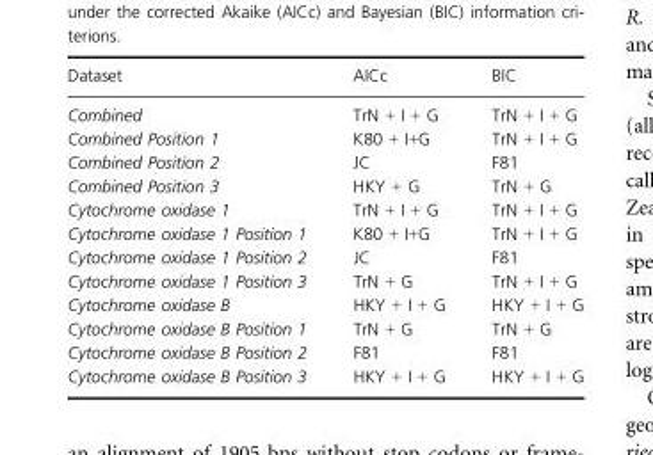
<table><thead><tr><td>Dataset</td><td>AICc</td><td>BIC</td></tr></thead><tbody><tr><td>Combined</td><td>TrN + I + G</td><td>TrN + I + G</td></tr><tr><td>Combined Position 1</td><td>K80 + I+G</td><td>TrN + I + G</td></tr><tr><td>Combined Position 2</td><td>JC</td><td>F81</td></tr><tr><td>Combined Position 3</td><td>HKY + G</td><td>TrN + G</td></tr><tr><td>Cytochrome oxidase 1</td><td>TrN + I + G</td><td>TrN + I + G</td></tr><tr><td>Cytochrome oxidase 1 Position 1</td><td>K80 + I+G</td><td>TrN + I + G</td></tr><tr><td>Cytochrome oxidase 1 Position 2</td><td>JC</td><td>F81</td></tr><tr><td>Cytochrome oxidase 1 Position 3</td><td>TrN + G</td><td>TrN + I + G</td></tr><tr><td>Cytochrome oxidase B</td><td>HKY + I + G</td><td>HKY + I + G</td></tr><tr><td>Cytochrome oxidase B Position 1</td><td>TrN + G</td><td>TrN + G</td></tr><tr><td>Cytochrome oxidase B Position 2</td><td>F81</td><td>F81</td></tr><tr><td>Cytochrome oxidase B Position 3</td><td>HKY + I + G</td><td>HKY + I + G</td></tr></tbody></table>